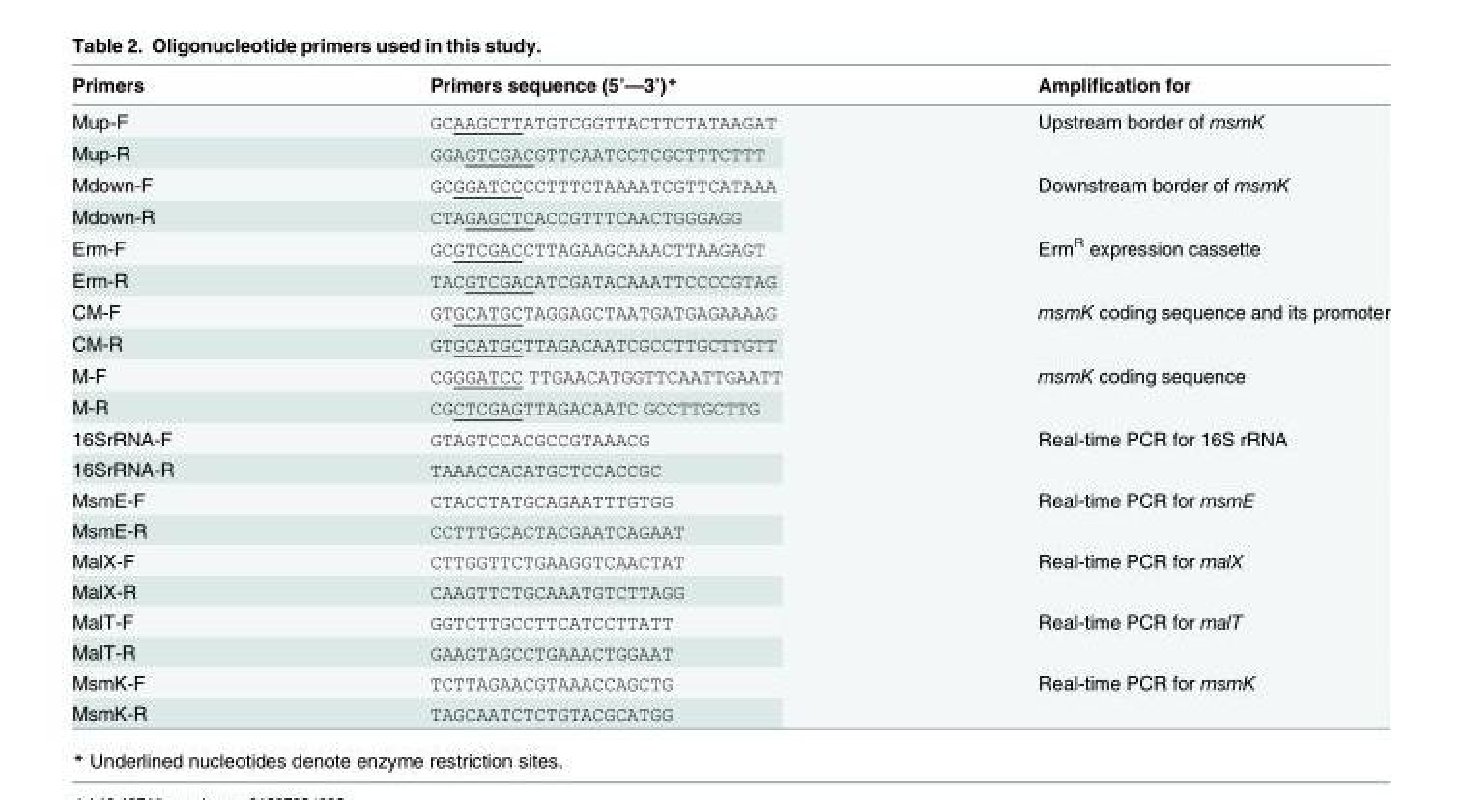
<table><thead><tr><td>Primers</td><td>Primers sequence (5’—3’)*</td><td>Amplification for</td></tr></thead><tbody><tr><td>Mup-F</td><td>GCAAGCTTATGTCGGTTACTTCTATAAGAT</td><td rowspan="2">Upstream border of msmK</td></tr><tr><td>Mup-R</td><td>GGAGTCGACGTTCAATCCTCGCTTTCTTT</td></tr><tr><td>Mdown-F</td><td>GCGGATCCCCTTTCTAAAATCGTTCATAAA</td><td rowspan="2">Downstream border of msmK</td></tr><tr><td>Mdown-R</td><td>CTAGAGCTCACCGTTTCAACTGGGAGG</td></tr><tr><td>Erm-F</td><td>GCGTCGACCTTAGAAGCAAACTTAAGAGT</td><td rowspan="2">Erm<sup>R</sup> expression cassette</td></tr><tr><td>Erm-R</td><td>TACGTCGACATCGATACAAATTCCCCGTAG</td></tr><tr><td>CM-F</td><td>GTGCATGCTAGGAGCTAATGATGAGAAAAG</td><td rowspan="2">msmK coding sequence and its promoter</td></tr><tr><td>CM-R</td><td>GTGCATGCTTAGACAATCGCCTTGCTTGTT</td></tr><tr><td>M-F</td><td>CGGGATCC TTGAACATGGTTCAATTGAATT</td><td rowspan="2">msmK coding sequence</td></tr><tr><td>M-R</td><td>CGCTCGAGTTAGACAATC GCCTTGCTTG</td></tr><tr><td>16SrRNA-F</td><td>GTAGTCCACGCCGTAAACG</td><td rowspan="2">Real-time PCR for 16S rRNA</td></tr><tr><td>16SrRNA-R</td><td>TAAACCACATGCTCCACCGC</td></tr><tr><td>MsmE-F</td><td>CTACCTATGCAGAATTTGTGG</td><td rowspan="2">Real-time PCR for msmE</td></tr><tr><td>MsmE-R</td><td>CCTTTGCACTACGAATCAGAAT</td></tr><tr><td>MalX-F</td><td>CTTGGTTCTGAAGGTCAACTAT</td><td rowspan="2">Real-time PCR for malX</td></tr><tr><td>MalX-R</td><td>CAAGTTCTGCAAATGTCTTAGG</td></tr><tr><td>MalT-F</td><td>GGTCTTGCCTTCATCCTTATT</td><td rowspan="2">Real-time PCR for malT</td></tr><tr><td>MalT-R</td><td>GAAGTAGCCTGAAACTGGAAT</td></tr><tr><td>MsmK-F</td><td>TCTTAGAACGTAAACCAGCTG</td><td rowspan="2">Real-time PCR for msmK</td></tr><tr><td>MsmK-R</td><td>TAGCAATCTCTGTACGCATGG</td></tr></tbody></table>